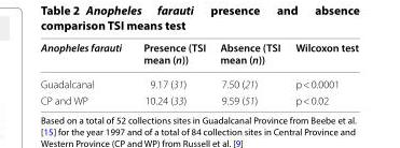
<table><thead><tr><td>Anopheles farauti</td><td>Presence (TSI mean (n))</td><td>Absence (TSI mean (n))</td><td>Wilcoxon test</td></tr></thead><tbody><tr><td>Guadalcanal</td><td>9.17 (31)</td><td>7.50 (21)</td><td>p &lt; 0.0001</td></tr><tr><td>CP and WP</td><td>10.24 (33)</td><td>9.59 (51)</td><td>p &lt; 0.02</td></tr></tbody></table>